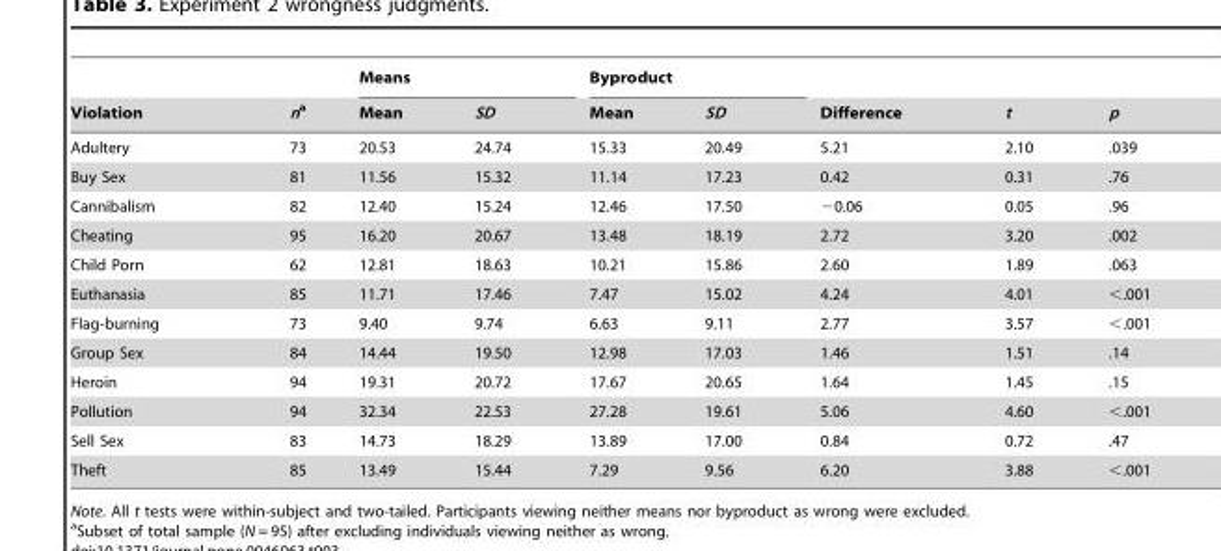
<table><thead><tr><td rowspan="2">Violation</td><td rowspan="2">na</td><td colspan="2">Means</td><td colspan="2">Byproduct</td><td rowspan="2">Difference</td><td rowspan="2">t</td><td rowspan="2">p</td></tr><tr><td>Mean</td><td>SD</td><td>Mean</td><td>SD</td></tr></thead><tbody><tr><td>Adultery</td><td>73</td><td>20.53</td><td>24.74</td><td>15.33</td><td>20.49</td><td>5.21</td><td>2.10</td><td>.039</td></tr><tr><td>Buy Sex</td><td>81</td><td>11.56</td><td>15.32</td><td>11.14</td><td>17.23</td><td>0.42</td><td>0.31</td><td>.76</td></tr><tr><td>Cannibalism</td><td>82</td><td>12.40</td><td>15.24</td><td>12.46</td><td>17.50</td><td>−0.06</td><td>0.05</td><td>.96</td></tr><tr><td>Cheating</td><td>95</td><td>16.20</td><td>20.67</td><td>13.48</td><td>18.19</td><td>2.72</td><td>3.20</td><td>.002</td></tr><tr><td>Child Porn</td><td>62</td><td>12.81</td><td>18.63</td><td>10.21</td><td>15.86</td><td>2.60</td><td>1.89</td><td>.063</td></tr><tr><td>Euthanasia</td><td>85</td><td>11.71</td><td>17.46</td><td>7.47</td><td>15.02</td><td>4.24</td><td>4.01</td><td>&lt;.001</td></tr><tr><td>Flag-burning</td><td>73</td><td>9.40</td><td>9.74</td><td>6.63</td><td>9.11</td><td>2.77</td><td>3.57</td><td>&lt;.001</td></tr><tr><td>Group Sex</td><td>84</td><td>14.44</td><td>19.50</td><td>12.98</td><td>17.03</td><td>1.46</td><td>1.51</td><td>.14</td></tr><tr><td>Heroin</td><td>94</td><td>19.31</td><td>20.72</td><td>17.67</td><td>20.65</td><td>1.64</td><td>1.45</td><td>.15</td></tr><tr><td>Pollution</td><td>94</td><td>32.34</td><td>22.53</td><td>27.28</td><td>19.61</td><td>5.06</td><td>4.60</td><td>&lt;.001</td></tr><tr><td>Sell Sex</td><td>83</td><td>14.73</td><td>18.29</td><td>13.89</td><td>17.00</td><td>0.84</td><td>0.72</td><td>.47</td></tr><tr><td>Theft</td><td>85</td><td>13.49</td><td>15.44</td><td>7.29</td><td>9.56</td><td>6.20</td><td>3.88</td><td>&lt;.001</td></tr></tbody></table>